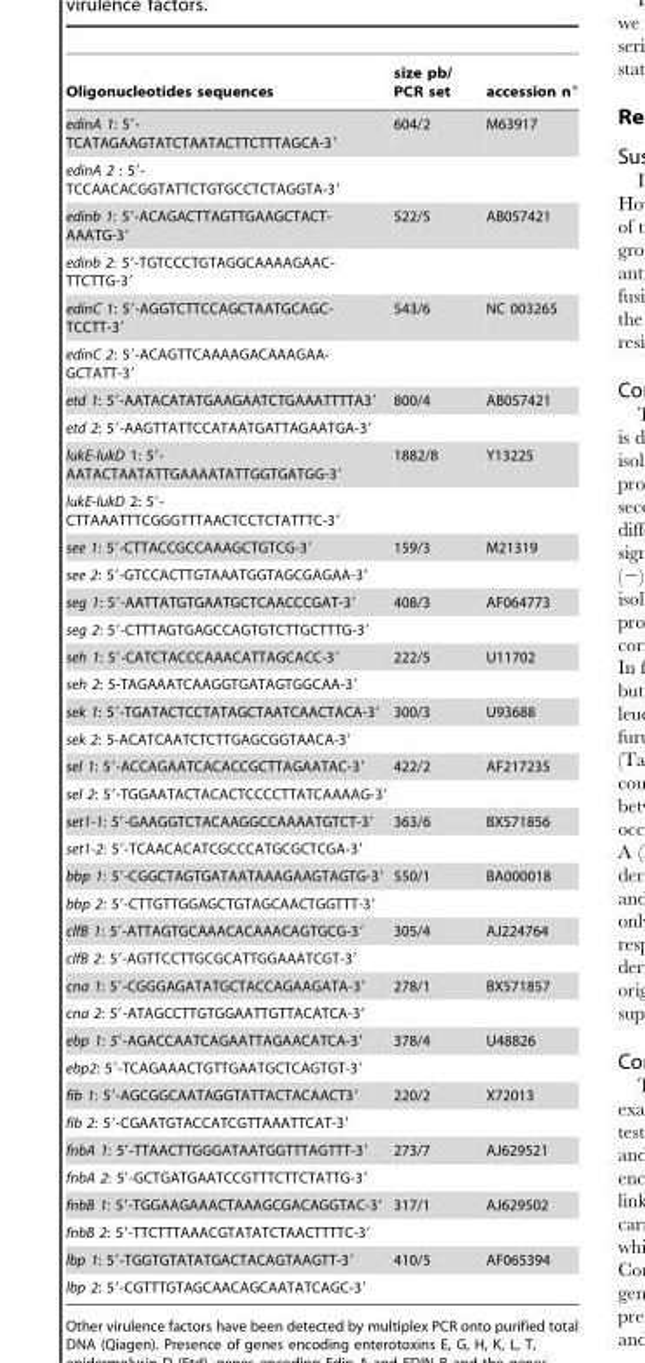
<table><thead><tr><td>Oligonucleotides sequences</td><td>size pb/ PCR set</td><td>accession n°</td></tr></thead><tbody><tr><td>edinA 1: 5′- TCATAGAAGTATCTAATACTTCTTTAGCA-3′</td><td>604/2</td><td>M63917</td></tr><tr><td colspan="3">edinA 2 : 5′- TCCAACACGGTATTCTGTGCCTCTAGGTA-3′</td></tr><tr><td>edinb 1: 59-ACAGACTTAGTTGAAGCTACT- AAATG-39</td><td>522/5</td><td>AB057421</td></tr><tr><td colspan="3">edinb 2: 59-TGTCCCTGTAGGCAAAAGAAC- TTCTTG-39</td></tr><tr><td>edinC 1: 59-AGGTCTTCCAGCTAATGCAGC- TCCTT-39</td><td>543/6</td><td>NC 003265</td></tr><tr><td colspan="3">edinC 2: 59-ACAGTTCAAAAGACAAAGAA- GCTATT-39</td></tr><tr><td>etd 1: 5′-AATACATATGAAGAATCTGAAATTTTA3′</td><td>800/4</td><td>AB057421</td></tr><tr><td colspan="3">etd 2: 5′-AAGTTATTCCATAATGATTAGAATGA-3′</td></tr><tr><td>lukE-lukD 1: 5′- AATACTAATATTGAAAATATTGGTGATGG-3′</td><td>1882/8</td><td>Y13225</td></tr><tr><td colspan="3">lukE-lukD 2: 5′- CTTAAATTTCGGGTTTAACTCCTCTATTTC-3′</td></tr><tr><td>see 1: 5′-CTTACCGCCAAAGCTGTCG-3′</td><td>159/3</td><td>M21319</td></tr><tr><td colspan="3">see 2: 5′-GTCCACTTGTAAATGGTAGCGAGAA-3′</td></tr><tr><td>seg 1: 5′-AATTATGTGAATGCTCAACCCGAT-3′</td><td>408/3</td><td>AF064773</td></tr><tr><td colspan="3">seg 2: 5′-CTTTAGTGAGCCAGTGTCTTGCTTTG-3′</td></tr><tr><td>seh 1: 5′-CATCTACCCAAACATTAGCACC-3′</td><td>222/5</td><td>U11702</td></tr><tr><td colspan="3">seh 2: 5-TAGAAATCAAGGTGATAGTGGCAA-3′</td></tr><tr><td>sek 1: 5′-TGATACTCCTATAGCTAATCAACTACA-3′</td><td>300/3</td><td>U93688</td></tr><tr><td colspan="3">sek 2: 5-ACATCAATCTCTTGAGCGGTAACA-3′</td></tr><tr><td>sel 1: 5′-ACCAGAATCACACCGCTTAGAATAC-3′</td><td>422/2</td><td>AF217235</td></tr><tr><td colspan="3">sel 2: 5′-TGGAATACTACACTCCCCTTATCAAAAG-3′</td></tr><tr><td>set1-1: 5′-GAAGGTCTACAAGGCCAAAATGTCT-3′</td><td>363/6</td><td>BX571856</td></tr><tr><td colspan="3">set1-2: 5′-TCAACACATCGCCCATGCGCTCGA-3′</td></tr><tr><td>bbp 1: 5′-CGGCTAGTGATAATAAAGAAGTAGTG-3′</td><td>550/1</td><td>BA000018</td></tr><tr><td colspan="3">bbp 2: 5′-CTTGTTGGAGCTGTAGCAACTGGTTT-3′</td></tr><tr><td>clfB 1: 5′-ATTAGTGCAAACACAAACAGTGCG-3′</td><td>305/4</td><td>AJ224764</td></tr><tr><td colspan="3">clfB 2: 5′-AGTTCCTTGCGCATTGGAAATCGT-3′</td></tr><tr><td>cna 1: 5′-CGGGAGATATGCTACCAGAAGATA-3′</td><td>278/1</td><td>BX571857</td></tr><tr><td colspan="3">cna 2: 5′-ATAGCCTTGTGGAATTGTTACATCA-3′</td></tr><tr><td>ebp 1: 5′-AGACCAATCAGAATTAGAACATCA-3′</td><td>378/4</td><td>U48826</td></tr><tr><td colspan="3">ebp2: 5′-TCAGAAACTGTTGAATGCTCAGTGT-3′</td></tr><tr><td>fib 1: 5′-AGCGGCAATAGGTATTACTACAACT3′</td><td>220/2</td><td>X72013</td></tr><tr><td colspan="3">fib 2: 5′-CGAATGTACCATCGTTAAATTCAT-3′</td></tr><tr><td>fnbA 1: 5′-TTAACTTGGGATAATGGTTTAGTTT-3′</td><td>273/7</td><td>AJ629521</td></tr><tr><td colspan="3">fnbA 2: 5′-GCTGATGAATCCGTTTCTTCTATTG-3′</td></tr><tr><td>fnbB 1: 5′-TGGAAGAAACTAAAGCGACAGGTAC-3′</td><td>317/1</td><td>AJ629502</td></tr><tr><td colspan="3">fnbB 2: 5′-TTCTTTAAACGTATATCTAACTTTTC-3′</td></tr><tr><td>lbp 1: 5′-TGGTGTATATGACTACAGTAAGTT-3′</td><td>410/5</td><td>AF065394</td></tr><tr><td>lbp 2: 5′-CGTTTGTAGCAACAGCAATATCAGC-3′</td><td></td><td></td></tr></tbody></table>